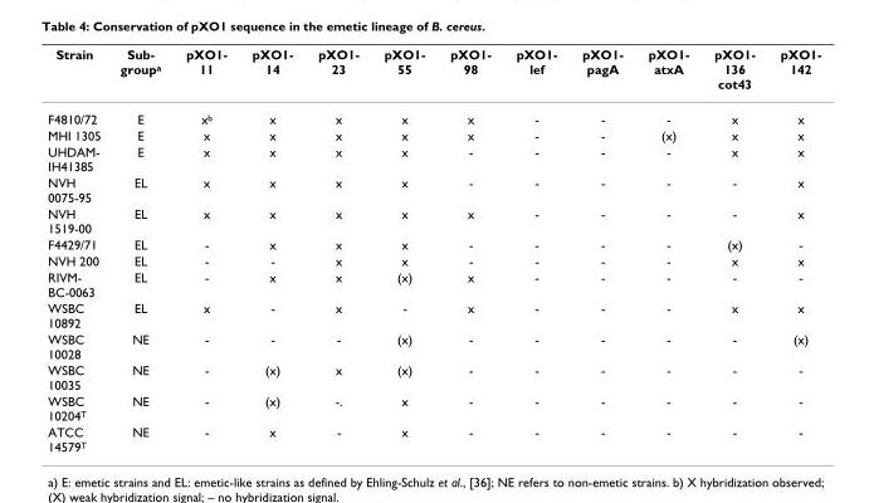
<table><thead><tr><td>Strain</td><td>Sub- groupa</td><td>pXO1- 11</td><td>pXO1- 14</td><td>pXO1- 23</td><td>pXO1- 55</td><td>pXO1- 98</td><td>pXO1- lef</td><td>pXO1- pagA</td><td>pXO1- atxA</td><td>pXO1- 136 cot43</td><td>pXO1- 142</td></tr></thead><tbody><tr><td>F4810/72</td><td>E</td><td>xb</td><td>x</td><td>x</td><td>x</td><td>x</td><td>-</td><td>-</td><td>-</td><td>x</td><td>x</td></tr><tr><td>MHI 1305</td><td>E</td><td>x</td><td>x</td><td>x</td><td>x</td><td>x</td><td>-</td><td>-</td><td>(x)</td><td>x</td><td>x</td></tr><tr><td>UHDAM- IH41385</td><td>E</td><td>x</td><td>x</td><td>x</td><td>x</td><td>-</td><td>-</td><td>-</td><td>-</td><td>x</td><td>x</td></tr><tr><td>NVH 0075-95</td><td>EL</td><td>x</td><td>x</td><td>x</td><td>x</td><td>-</td><td>-</td><td>-</td><td>-</td><td>-</td><td>x</td></tr><tr><td>NVH 1519-00</td><td>EL</td><td>x</td><td>x</td><td>x</td><td>x</td><td>x</td><td>-</td><td>-</td><td>-</td><td>-</td><td>x</td></tr><tr><td>F4429/71</td><td>EL</td><td>-</td><td>x</td><td>x</td><td>x</td><td>-</td><td>-</td><td>-</td><td>-</td><td>(x)</td><td>-</td></tr><tr><td>NVH 200</td><td>EL</td><td>-</td><td>-</td><td>x</td><td>x</td><td>-</td><td>-</td><td>-</td><td>-</td><td>x</td><td>x</td></tr><tr><td>RIVM- BC-0063</td><td>EL</td><td>-</td><td>x</td><td>x</td><td>(x)</td><td>x</td><td>-</td><td>-</td><td>-</td><td>-</td><td>-</td></tr><tr><td>WSBC 10892</td><td>EL</td><td>x</td><td>-</td><td>x</td><td>-</td><td>x</td><td>-</td><td>-</td><td>-</td><td>x</td><td>x</td></tr><tr><td>WSBC 10028</td><td>NE</td><td>-</td><td>-</td><td>-</td><td>(x)</td><td>-</td><td>-</td><td>-</td><td>-</td><td>-</td><td>(x)</td></tr><tr><td>WSBC 10035</td><td>NE</td><td>-</td><td>(x)</td><td>x</td><td>(x)</td><td>-</td><td>-</td><td>-</td><td>-</td><td>-</td><td>-</td></tr><tr><td>WSBC 10204T</td><td>NE</td><td>-</td><td>(x)</td><td>-.</td><td>x</td><td>-</td><td>-</td><td>-</td><td>-</td><td>-</td><td>-</td></tr><tr><td>ATCC 14579T</td><td>NE</td><td>-</td><td>x</td><td>-</td><td>x</td><td>-</td><td>-</td><td>-</td><td>-</td><td>-</td><td>-</td></tr></tbody></table>